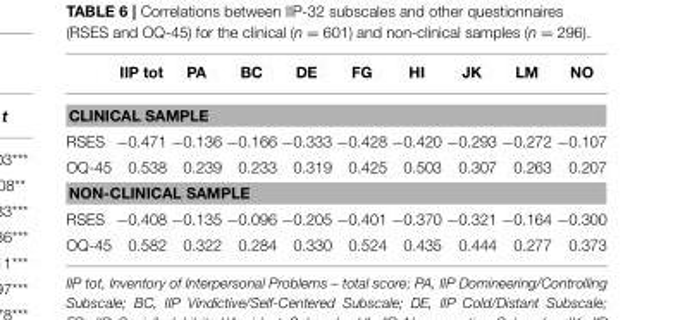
<table><thead><tr><td></td><td>IIP tot</td><td>PA</td><td>BC</td><td>DE</td><td>FG</td><td>HI</td><td>JK</td><td>LM</td><td>NO</td></tr></thead><tbody><tr><td colspan="10">CLINICAL SAMPLE</td></tr><tr><td>RSES</td><td>−0.471</td><td>−0.136</td><td>−0.166</td><td>−0.333</td><td>−0.428</td><td>−0.420</td><td>−0.293</td><td>−0.272</td><td>−0.107</td></tr><tr><td>OQ-45</td><td>0.538</td><td>0.239</td><td>0.233</td><td>0.319</td><td>0.425</td><td>0.503</td><td>0.307</td><td>0.263</td><td>0.207</td></tr><tr><td colspan="10">NON-CLINICAL SAMPLE</td></tr><tr><td>RSES</td><td>−0.408</td><td>−0.135</td><td>−0.096</td><td>−0.205</td><td>−0.401</td><td>−0.370</td><td>−0.321</td><td>−0.164</td><td>−0.300</td></tr><tr><td>OQ-45</td><td>0.582</td><td>0.322</td><td>0.284</td><td>0.330</td><td>0.524</td><td>0.435</td><td>0.444</td><td>0.277</td><td>0.373</td></tr></tbody></table>